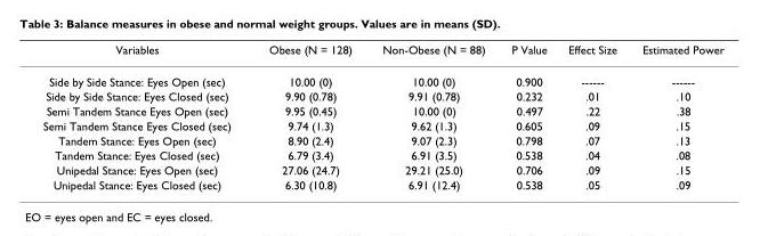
<table><thead><tr><td>Variables</td><td>Obese (N = 128)</td><td>Non-Obese (N = 88)</td><td>P Value</td><td>Effect Size</td><td>Estimated Power</td></tr></thead><tbody><tr><td>Side by Side Stance: Eyes Open (sec)</td><td>10.00 (0)</td><td>10.00 (0)</td><td>0.900</td><td>------</td><td>------</td></tr><tr><td>Side by Side Stance: Eyes Closed (sec)</td><td>9.90 (0.78)</td><td>9.91 (0.78)</td><td>0.232</td><td>.01</td><td>.10</td></tr><tr><td>Semi Tandem Stance Eyes Open (sec)</td><td>9.95 (0.45)</td><td>10.00 (0)</td><td>0.497</td><td>.22</td><td>.38</td></tr><tr><td>Semi Tandem Stance Eyes Closed (sec)</td><td>9.74 (1.3)</td><td>9.62 (1.3)</td><td>0.605</td><td>.09</td><td>.15</td></tr><tr><td>Tandem Stance: Eyes Open (sec)</td><td>8.90 (2.4)</td><td>9.07 (2.3)</td><td>0.798</td><td>.07</td><td>.13</td></tr><tr><td>Tandem Stance: Eyes Closed (sec)</td><td>6.79 (3.4)</td><td>6.91 (3.5)</td><td>0.538</td><td>.04</td><td>.08</td></tr><tr><td>Unipedal Stance: Eyes Open (sec)</td><td>27.06 (24.7)</td><td>29.21 (25.0)</td><td>0.706</td><td>.09</td><td>.15</td></tr><tr><td>Unipedal Stance: Eyes Closed (sec)</td><td>6.30 (10.8)</td><td>6.91 (12.4)</td><td>0.538</td><td>.05</td><td>.09</td></tr></tbody></table>